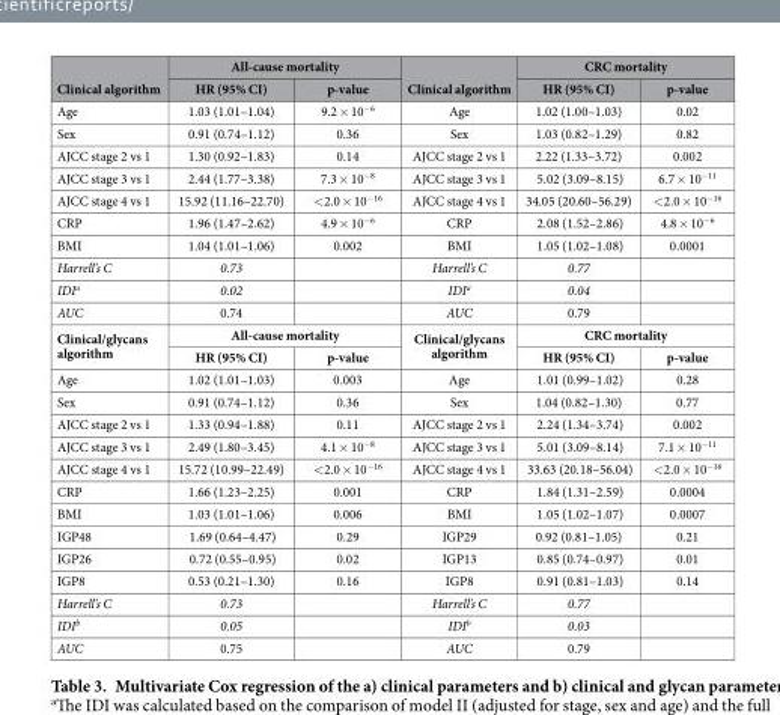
<table><thead><tr><td rowspan="2">Clinical algorithm</td><td colspan="2">All-cause mortality</td><td rowspan="2">Clinical algorithm</td><td colspan="2">CRC mortality</td></tr><tr><td>HR (95% CI)</td><td>p-value</td><td>HR (95% CI)</td><td>p-value</td></tr></thead><tbody><tr><td>Age</td><td>1.03 (1.01–1.04)</td><td>9.2 × 10<sup>−6</sup></td><td>Age</td><td>1.02 (1.00–1.03)</td><td>0.02</td></tr><tr><td>Sex</td><td>0.91 (0.74–1.12)</td><td>0.36</td><td>Sex</td><td>1.03 (0.82–1.29)</td><td>0.82</td></tr><tr><td>AJCC stage 2 vs 1</td><td>1.30 (0.92–1.83)</td><td>0.14</td><td>AJCC stage 2 vs 1</td><td>2.22 (1.33–3.72)</td><td>0.002</td></tr><tr><td>AJCC stage 3 vs 1</td><td>2.44 (1.77–3.38)</td><td>7.3 × 10<sup>−8</sup></td><td>AJCC stage 3 vs 1</td><td>5.02 (3.09–8.15)</td><td>6.7 × 10<sup>−11</sup></td></tr><tr><td>AJCC stage 4 vs 1</td><td>15.92 (11.16–22.70)</td><td>&lt; 2.0 × 10<sup>−16</sup></td><td>AJCC stage 4 vs 1</td><td>34.05 (20.60–56.29)</td><td>&lt; 2.0 × 10<sup>−16</sup></td></tr><tr><td>CRP</td><td>1.96 (1.47–2.62)</td><td>4.9 × 10<sup>−6</sup></td><td>CRP</td><td>2.08 (1.52–2.86)</td><td>4.8 × 10<sup>−6</sup></td></tr><tr><td>BMI</td><td>1.04 (1.01–1.06)</td><td>0.002</td><td>BMI</td><td>1.05 (1.02–1.08)</td><td>0.0001</td></tr><tr><td>Harrell’s C</td><td>0.73</td><td></td><td>Harrell’s C</td><td>0.77</td><td></td></tr><tr><td>IDI<sup>a</sup></td><td>0.02</td><td></td><td>IDI<sup>a</sup></td><td>0.04</td><td></td></tr><tr><td>AUC</td><td>0.74</td><td></td><td>AUC</td><td>0.79</td><td></td></tr><tr><td rowspan="2">Clinical/glycans algorithm</td><td colspan="2">All-cause mortality</td><td rowspan="2">Clinical/glycans algorithm</td><td colspan="2">CRC mortality</td></tr><tr><td>HR (95% CI)</td><td>p-value</td><td>HR (95% CI)</td><td>p-value</td></tr><tr><td>Age</td><td>1.02 (1.01–1.03)</td><td>0.003</td><td>Age</td><td>1.01 (0.99–1.02)</td><td>0.28</td></tr><tr><td>Sex</td><td>0.91 (0.74–1.12)</td><td>0.36</td><td>Sex</td><td>1.04 (0.82–1.30)</td><td>0.77</td></tr><tr><td>AJCC stage 2 vs 1</td><td>1.33 (0.94–1.88)</td><td>0.11</td><td>AJCC stage 2 vs 1</td><td>2.24 (1.34–3.74)</td><td>0.002</td></tr><tr><td>AJCC stage 3 vs 1</td><td>2.49 (1.80–3.45)</td><td>4.1 × 10<sup>−8</sup></td><td>AJCC stage 3 vs 1</td><td>5.01 (3.09–8.14)</td><td>7.1 × 10<sup>−11</sup></td></tr><tr><td>AJCC stage 4 vs 1</td><td>15.72 (10.99–22.49)</td><td>&lt; 2.0 × 10<sup>−16</sup></td><td>AJCC stage 4 vs 1</td><td>33.63 (20.18–56.04)</td><td>&lt; 2.0 × 10<sup>−16</sup></td></tr><tr><td>CRP</td><td>1.66 (1.23–2.25)</td><td>0.001</td><td>CRP</td><td>1.84 (1.31–2.59)</td><td>0.0004</td></tr><tr><td>BMI</td><td>1.03 (1.01–1.06)</td><td>0.006</td><td>BMI</td><td>1.05 (1.02–1.07)</td><td>0.0007</td></tr><tr><td>IGP48</td><td>1.69 (0.64–4.47)</td><td>0.29</td><td>IGP29</td><td>0.92 (0.81–1.05)</td><td>0.21</td></tr><tr><td>IGP26</td><td>0.72 (0.55–0.95)</td><td>0.02</td><td>IGP13</td><td>0.85 (0.74–0.97)</td><td>0.01</td></tr><tr><td>IGP8</td><td>0.53 (0.21–1.30)</td><td>0.16</td><td>IGP8</td><td>0.91 (0.81–1.03)</td><td>0.14</td></tr><tr><td>Harrell’s C</td><td>0.73</td><td></td><td>Harrell’s C</td><td>0.77</td><td></td></tr><tr><td>IDI<sup>b</sup></td><td>0.05</td><td></td><td>IDI<sup>b</sup></td><td>0.03</td><td></td></tr><tr><td>AUC</td><td>0.75</td><td></td><td>AUC</td><td>0.79</td><td></td></tr></tbody></table>